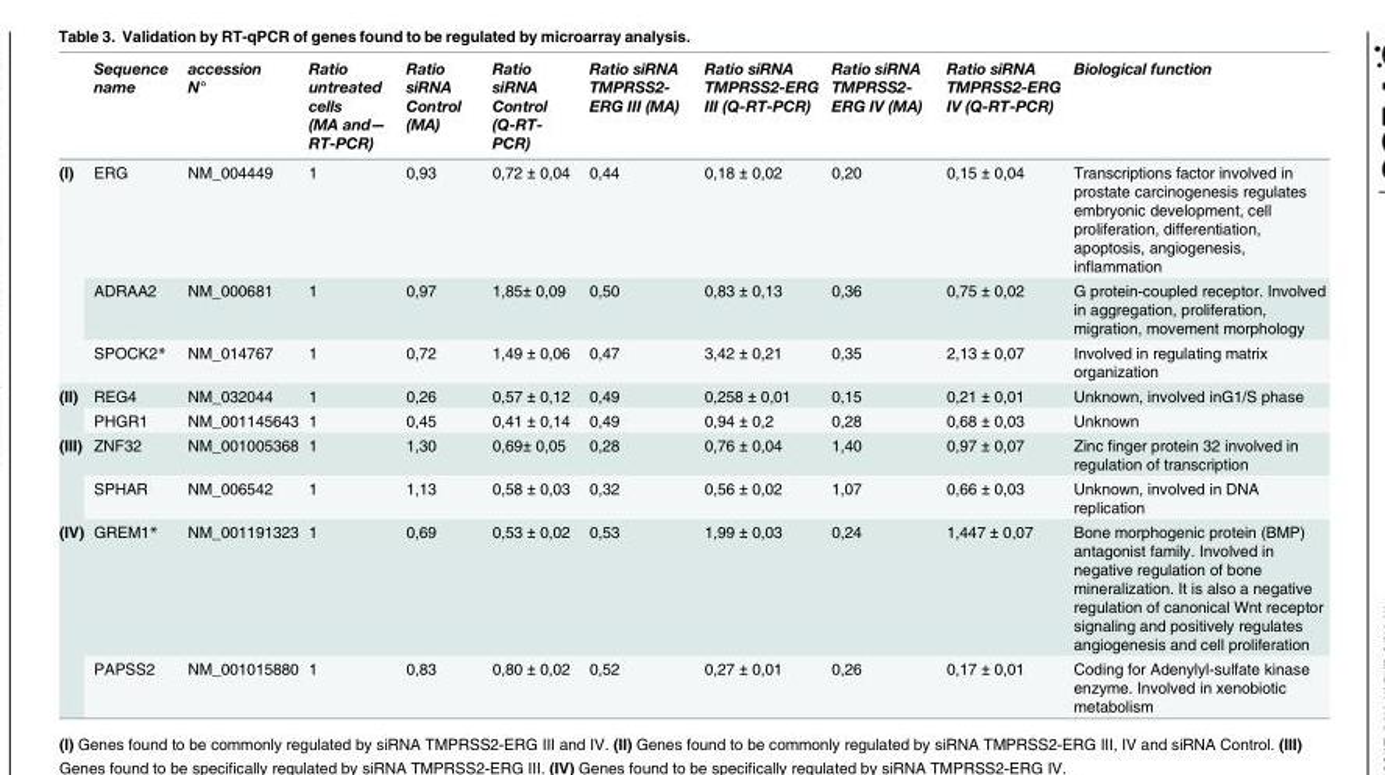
<table><thead><tr><td></td><td>Sequence name</td><td>accession N°</td><td>Ratio untreated cells (MA and— RT-PCR)</td><td>Ratio siRNA Control (MA)</td><td>Ratio siRNA Control (Q-RT- PCR)</td><td>Ratio siRNA TMPRSS2- ERG III (MA)</td><td>Ratio siRNA TMPRSS2-ERG III (Q-RT-PCR)</td><td>Ratio siRNA TMPRSS2- ERG IV (MA)</td><td>Ratio siRNA TMPRSS2-ERG IV (Q-RT-PCR)</td><td>Biological function</td></tr></thead><tbody><tr><td rowspan="3">(I)</td><td>ERG</td><td>NM_004449</td><td>1</td><td>0,93</td><td>0,72 ± 0,04</td><td>0,44</td><td>0,18 ± 0,02</td><td>0,20</td><td>0,15 ± 0,04</td><td>Transcriptions factor involved in prostate carcinogenesis regulates embryonic development, cell proliferation, differentiation, apoptosis, angiogenesis, inflammation</td></tr><tr><td>ADRAA2</td><td>NM_000681</td><td>1</td><td>0,97</td><td>1,85± 0,09</td><td>0,50</td><td>0,83 ± 0,13</td><td>0,36</td><td>0,75 ± 0,02</td><td>G protein-coupled receptor. Involved in aggregation, proliferation, migration, movement morphology</td></tr><tr><td>SPOCK2*</td><td>NM_014767</td><td>1</td><td>0,72</td><td>1,49 ± 0,06</td><td>0,47</td><td>3,42 ± 0,21</td><td>0,35</td><td>2,13 ± 0,07</td><td>Involved in regulating matrix organization</td></tr><tr><td rowspan="2">(II)</td><td>REG4</td><td>NM_032044</td><td>1</td><td>0,26</td><td>0,57 ± 0,12</td><td>0,49</td><td>0,258 ± 0,01</td><td>0,15</td><td>0,21 ± 0,01</td><td>Unknown, involved inG1/S phase</td></tr><tr><td>PHGR1</td><td>NM_001145643</td><td>1</td><td>0,45</td><td>0,41 ± 0,14</td><td>0,49</td><td>0,94 ± 0,2</td><td>0,28</td><td>0,68 ± 0,03</td><td>Unknown</td></tr><tr><td rowspan="2">(III)</td><td>ZNF32</td><td>NM_001005368</td><td>1</td><td>1,30</td><td>0,69± 0,05</td><td>0,28</td><td>0,76 ± 0,04</td><td>1,40</td><td>0,97 ± 0,07</td><td>Zinc finger protein 32 involved in regulation of transcription</td></tr><tr><td>SPHAR</td><td>NM_006542</td><td>1</td><td>1,13</td><td>0,58 ± 0,03</td><td>0,32</td><td>0,56 ± 0,02</td><td>1,07</td><td>0,66 ± 0,03</td><td>Unknown, involved in DNA replication</td></tr><tr><td rowspan="2">(IV)</td><td>GREM1*</td><td>NM_001191323</td><td>1</td><td>0,69</td><td>0,53 ± 0,02</td><td>0,53</td><td>1,99 ± 0,03</td><td>0,24</td><td>1,447 ± 0,07</td><td>Bone morphogenic protein (BMP) antagonist family. Involved in negative regulation of bone mineralization. It is also a negative regulation of canonical Wnt receptor signaling and positively regulates angiogenesis and cell proliferation</td></tr><tr><td>PAPSS2</td><td>NM_001015880</td><td>1</td><td>0,83</td><td>0,80 ± 0,02</td><td>0,52</td><td>0,27 ± 0,01</td><td>0,26</td><td>0,17 ± 0,01</td><td>Coding for Adenylyl-sulfate kinase enzyme. Involved in xenobiotic metabolism</td></tr></tbody></table>